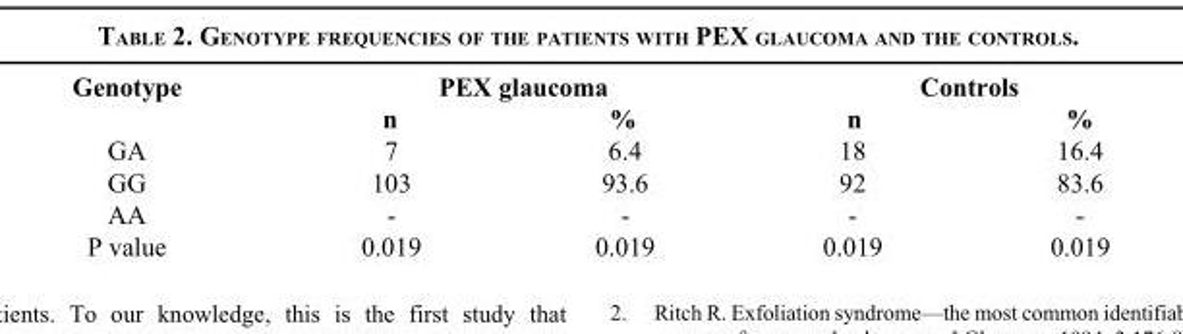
<table><thead><tr><td rowspan="2">Genotype</td><td colspan="2">PEX glaucoma</td><td colspan="2">Controls</td></tr><tr><td>n</td><td>%</td><td>n</td><td>%</td></tr></thead><tbody><tr><td>GA</td><td>7</td><td>6.4</td><td>18</td><td>16.4</td></tr><tr><td>GG</td><td>103</td><td>93.6</td><td>92</td><td>83.6</td></tr><tr><td>AA</td><td>-</td><td>-</td><td>-</td><td>-</td></tr><tr><td>P value</td><td>0.019</td><td>0.019</td><td>0.019</td><td>0.019</td></tr></tbody></table>